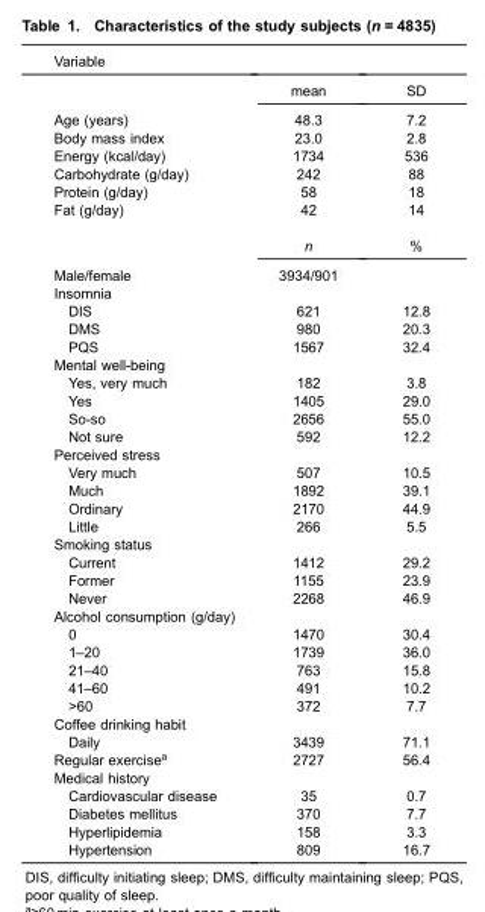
<table><thead><tr><td>Variable</td><td></td><td></td></tr></thead><tbody><tr><td></td><td>mean</td><td>SD</td></tr><tr><td>Age (years)</td><td>48.3</td><td>7.2</td></tr><tr><td>Body mass index</td><td>23.0</td><td>2.8</td></tr><tr><td>Energy (kcal/day)</td><td>1734</td><td>536</td></tr><tr><td>Carbohydrate (g/day)</td><td>242</td><td>88</td></tr><tr><td>Protein (g/day)</td><td>58</td><td>18</td></tr><tr><td rowspan="2">Fat (g/day)</td><td>42</td><td>14</td></tr><tr><td>n</td><td>%</td></tr><tr><td>Male/female</td><td>3934/901</td><td></td></tr><tr><td colspan="3">Insomnia</td></tr><tr><td>DIS</td><td>621</td><td>12.8</td></tr><tr><td>DMS</td><td>980</td><td>20.3</td></tr><tr><td>PQS</td><td>1567</td><td>32.4</td></tr><tr><td colspan="3">Mental well-being</td></tr><tr><td>Yes, very much</td><td>182</td><td>3.8</td></tr><tr><td>Yes</td><td>1405</td><td>29.0</td></tr><tr><td>So-so</td><td>2656</td><td>55.0</td></tr><tr><td>Not sure</td><td>592</td><td>12.2</td></tr><tr><td colspan="3">Perceived stress</td></tr><tr><td>Very much</td><td>507</td><td>10.5</td></tr><tr><td>Much</td><td>1892</td><td>39.1</td></tr><tr><td>Ordinary</td><td>2170</td><td>44.9</td></tr><tr><td>Little</td><td>266</td><td>5.5</td></tr><tr><td colspan="3">Smoking status</td></tr><tr><td>Current</td><td>1412</td><td>29.2</td></tr><tr><td>Former</td><td>1155</td><td>23.9</td></tr><tr><td>Never</td><td>2268</td><td>46.9</td></tr><tr><td colspan="3">Alcohol consumption (g/day)</td></tr><tr><td>0</td><td>1470</td><td>30.4</td></tr><tr><td>1–20</td><td>1739</td><td>36.0</td></tr><tr><td>21–40</td><td>763</td><td>15.8</td></tr><tr><td>41–60</td><td>491</td><td>10.2</td></tr><tr><td>&gt;60</td><td>372</td><td>7.7</td></tr><tr><td colspan="3">Coffee drinking habit</td></tr><tr><td>Daily</td><td>3439</td><td>71.1</td></tr><tr><td>Regular exercise<sup>a</sup></td><td>2727</td><td>56.4</td></tr><tr><td colspan="3">Medical history</td></tr><tr><td>Cardiovascular disease</td><td>35</td><td>0.7</td></tr><tr><td>Diabetes mellitus</td><td>370</td><td>7.7</td></tr><tr><td>Hyperlipidemia</td><td>158</td><td>3.3</td></tr><tr><td>Hypertension</td><td>809</td><td>16.7</td></tr></tbody></table>